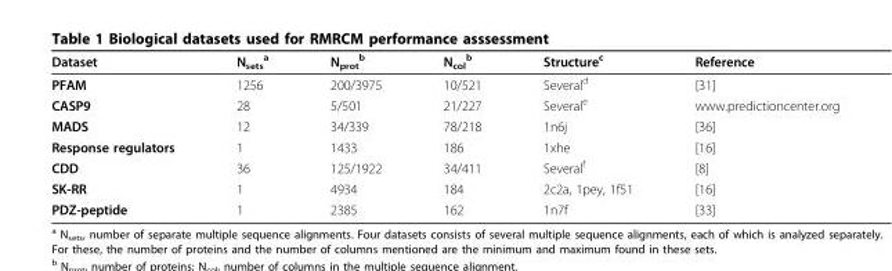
<table><thead><tr><td>Dataset</td><td>N<sub>sets</sub> <sup>a</sup></td><td>N<sub>prot</sub> <sup>b</sup></td><td>N<sub>col</sub> <sup>b</sup></td><td>Structure<sup>c</sup></td><td>Reference</td></tr></thead><tbody><tr><td>PFAM</td><td>1256</td><td>200/3975</td><td>10/521</td><td>Several<sup>d</sup></td><td>[31]</td></tr><tr><td>CASP9</td><td>28</td><td>5/501</td><td>21/227</td><td>Several<sup>e</sup></td><td>www.predictioncenter.org</td></tr><tr><td>MADS</td><td>12</td><td>34/339</td><td>78/218</td><td>1n6j</td><td>[36]</td></tr><tr><td>Response regulators</td><td>1</td><td>1433</td><td>186</td><td>1xhe</td><td>[16]</td></tr><tr><td>CDD</td><td>36</td><td>125/1922</td><td>34/411</td><td>Several<sup>f</sup></td><td>[8]</td></tr><tr><td>SK-RR</td><td>1</td><td>4934</td><td>184</td><td>2c2a, 1pey, 1f51</td><td>[16]</td></tr><tr><td>PDZ-peptide</td><td>1</td><td>2385</td><td>162</td><td>1n7f</td><td>[33]</td></tr></tbody></table>